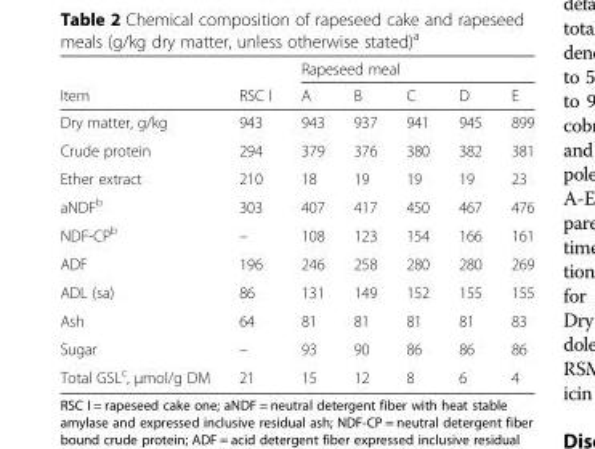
<table><thead><tr><td rowspan="2">Item</td><td rowspan="2">RSC I</td><td colspan="5">Rapeseed meal</td></tr><tr><td>A</td><td>B</td><td>C</td><td>D</td><td>E</td></tr></thead><tbody><tr><td>Dry matter, g/kg</td><td>943</td><td>943</td><td>937</td><td>941</td><td>945</td><td>899</td></tr><tr><td>Crude protein</td><td>294</td><td>379</td><td>376</td><td>380</td><td>382</td><td>381</td></tr><tr><td>Ether extract</td><td>210</td><td>18</td><td>19</td><td>19</td><td>19</td><td>23</td></tr><tr><td>aNDF<sup>b</sup></td><td>303</td><td>407</td><td>417</td><td>450</td><td>467</td><td>476</td></tr><tr><td>NDF-CP<sup>b</sup></td><td>–</td><td>108</td><td>123</td><td>154</td><td>166</td><td>161</td></tr><tr><td>ADF</td><td>196</td><td>246</td><td>258</td><td>280</td><td>280</td><td>269</td></tr><tr><td>ADL (sa)</td><td>86</td><td>131</td><td>149</td><td>152</td><td>155</td><td>155</td></tr><tr><td>Ash</td><td>64</td><td>81</td><td>81</td><td>81</td><td>81</td><td>83</td></tr><tr><td>Sugar</td><td>–</td><td>93</td><td>90</td><td>86</td><td>86</td><td>86</td></tr><tr><td>Total GSL<sup>c</sup>, μmol/g DM</td><td>21</td><td>15</td><td>12</td><td>8</td><td>6</td><td>4</td></tr></tbody></table>